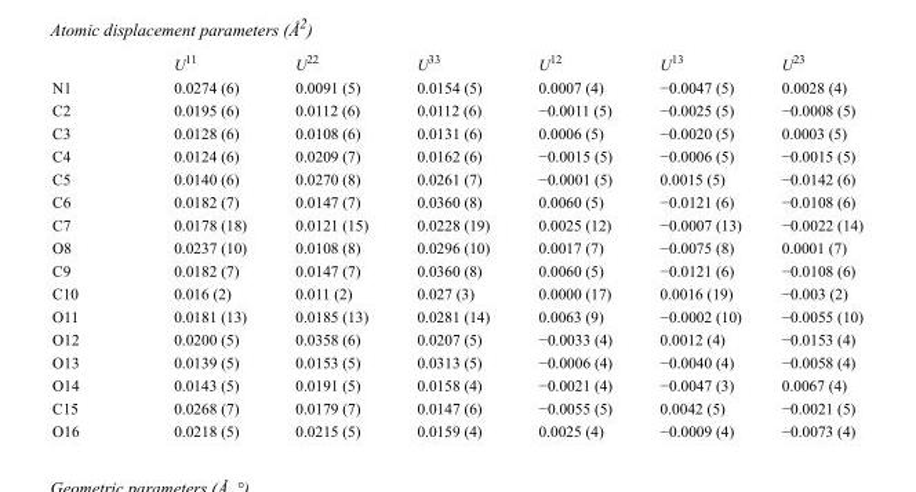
<table><thead><tr><td></td><td>U<sup>11</sup></td><td>U<sup>22</sup></td><td>U<sup>33</sup></td><td>U<sup>12</sup></td><td>U<sup>13</sup></td><td>U<sup>23</sup></td></tr></thead><tbody><tr><td>N1</td><td>0.0274 (6)</td><td>0.0091 (5)</td><td>0.0154 (5)</td><td>0.0007 (4)</td><td>−0.0047 (5)</td><td>0.0028 (4)</td></tr><tr><td>C2</td><td>0.0195 (6)</td><td>0.0112 (6)</td><td>0.0112 (6)</td><td>−0.0011 (5)</td><td>−0.0025 (5)</td><td>−0.0008 (5)</td></tr><tr><td>C3</td><td>0.0128 (6)</td><td>0.0108 (6)</td><td>0.0131 (6)</td><td>0.0006 (5)</td><td>−0.0020 (5)</td><td>0.0003 (5)</td></tr><tr><td>C4</td><td>0.0124 (6)</td><td>0.0209 (7)</td><td>0.0162 (6)</td><td>−0.0015 (5)</td><td>−0.0006 (5)</td><td>−0.0015 (5)</td></tr><tr><td>C5</td><td>0.0140 (6)</td><td>0.0270 (8)</td><td>0.0261 (7)</td><td>−0.0001 (5)</td><td>0.0015 (5)</td><td>−0.0142 (6)</td></tr><tr><td>C6</td><td>0.0182 (7)</td><td>0.0147 (7)</td><td>0.0360 (8)</td><td>0.0060 (5)</td><td>−0.0121 (6)</td><td>−0.0108 (6)</td></tr><tr><td>C7</td><td>0.0178 (18)</td><td>0.0121 (15)</td><td>0.0228 (19)</td><td>0.0025 (12)</td><td>−0.0007 (13)</td><td>−0.0022 (14)</td></tr><tr><td>O8</td><td>0.0237 (10)</td><td>0.0108 (8)</td><td>0.0296 (10)</td><td>0.0017 (7)</td><td>−0.0075 (8)</td><td>0.0001 (7)</td></tr><tr><td>C9</td><td>0.0182 (7)</td><td>0.0147 (7)</td><td>0.0360 (8)</td><td>0.0060 (5)</td><td>−0.0121 (6)</td><td>−0.0108 (6)</td></tr><tr><td>C10</td><td>0.016 (2)</td><td>0.011 (2)</td><td>0.027 (3)</td><td>0.0000 (17)</td><td>0.0016 (19)</td><td>−0.003 (2)</td></tr><tr><td>O11</td><td>0.0181 (13)</td><td>0.0185 (13)</td><td>0.0281 (14)</td><td>0.0063 (9)</td><td>−0.0002 (10)</td><td>−0.0055 (10)</td></tr><tr><td>O12</td><td>0.0200 (5)</td><td>0.0358 (6)</td><td>0.0207 (5)</td><td>−0.0033 (4)</td><td>0.0012 (4)</td><td>−0.0153 (4)</td></tr><tr><td>O13</td><td>0.0139 (5)</td><td>0.0153 (5)</td><td>0.0313 (5)</td><td>−0.0006 (4)</td><td>−0.0040 (4)</td><td>−0.0058 (4)</td></tr><tr><td>O14</td><td>0.0143 (5)</td><td>0.0191 (5)</td><td>0.0158 (4)</td><td>−0.0021 (4)</td><td>−0.0047 (3)</td><td>0.0067 (4)</td></tr><tr><td>C15</td><td>0.0268 (7)</td><td>0.0179 (7)</td><td>0.0147 (6)</td><td>−0.0055 (5)</td><td>0.0042 (5)</td><td>−0.0021 (5)</td></tr><tr><td>O16</td><td>0.0218 (5)</td><td>0.0215 (5)</td><td>0.0159 (4)</td><td>0.0025 (4)</td><td>−0.0009 (4)</td><td>−0.0073 (4)</td></tr></tbody></table>